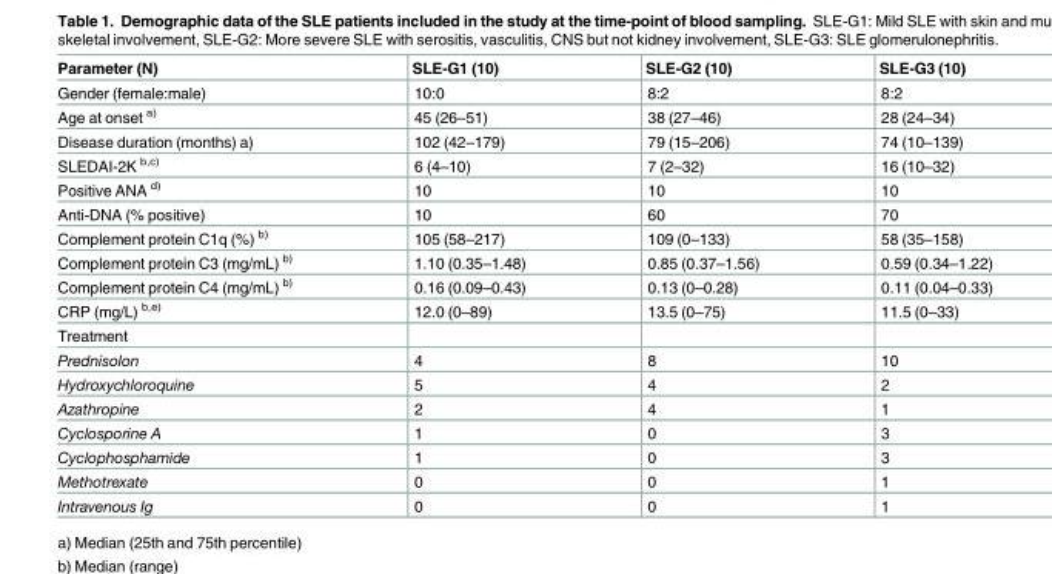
<table><thead><tr><td>Parameter (N)</td><td>SLE-G1 (10)</td><td>SLE-G2 (10)</td><td>SLE-G3 (10)</td></tr></thead><tbody><tr><td>Gender (female:male)</td><td>10:0</td><td>8:2</td><td>8:2</td></tr><tr><td>Age at onset <sup>a)</sup></td><td>45 (26–51)</td><td>38 (27–46)</td><td>28 (24–34)</td></tr><tr><td>Disease duration (months) a)</td><td>102 (42–179)</td><td>79 (15–206)</td><td>74 (10–139)</td></tr><tr><td>SLEDAI-2K <sup>b,c)</sup></td><td>6 (4–10)</td><td>7 (2–32)</td><td>16 (10–32)</td></tr><tr><td>Positive ANA <sup>d)</sup></td><td>10</td><td>10</td><td>10</td></tr><tr><td>Anti-DNA (% positive)</td><td>10</td><td>60</td><td>70</td></tr><tr><td>Complement protein C1q (%) <sup>b)</sup></td><td>105 (58–217)</td><td>109 (0–133)</td><td>58 (35–158)</td></tr><tr><td>Complement protein C3 (mg/mL) <sup>b)</sup></td><td>1.10 (0.35–1.48)</td><td>0.85 (0.37–1.56)</td><td>0.59 (0.34–1.22)</td></tr><tr><td>Complement protein C4 (mg/mL) <sup>b)</sup></td><td>0.16 (0.09–0.43)</td><td>0.13 (0–0.28)</td><td>0.11 (0.04–0.33)</td></tr><tr><td>CRP (mg/L) <sup>b,e)</sup></td><td>12.0 (0–89)</td><td>13.5 (0–75)</td><td>11.5 (0–33)</td></tr><tr><td colspan="4">Treatment</td></tr><tr><td>Prednisolon</td><td>4</td><td>8</td><td>10</td></tr><tr><td>Hydroxychloroquine</td><td>5</td><td>4</td><td>2</td></tr><tr><td>Azathropine</td><td>2</td><td>4</td><td>1</td></tr><tr><td>Cyclosporine A</td><td>1</td><td>0</td><td>3</td></tr><tr><td>Cyclophosphamide</td><td>1</td><td>0</td><td>3</td></tr><tr><td>Methotrexate</td><td>0</td><td>0</td><td>1</td></tr><tr><td>Intravenous Ig</td><td>0</td><td>0</td><td>1</td></tr></tbody></table>